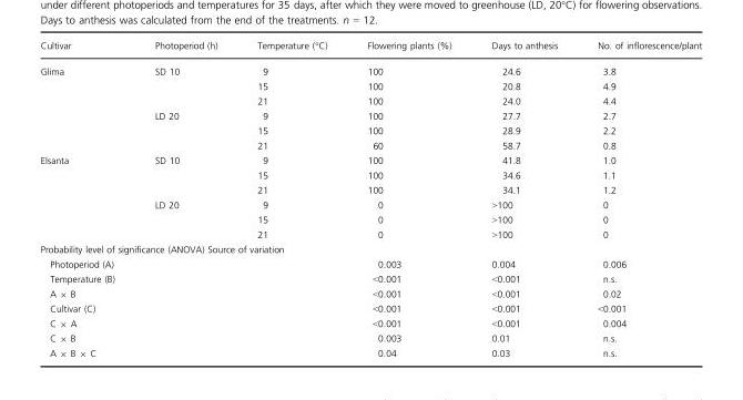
<table><thead><tr><td>Cultivar</td><td>Photoperiod (h)</td><td>Temperature (°C)</td><td>Flowering plants (%)</td><td>Days to anthesis</td><td>No. of inflorescence/plant</td></tr></thead><tbody><tr><td rowspan="6">Glima</td><td rowspan="3">SD 10</td><td>9</td><td>100</td><td>24.6</td><td>3.8</td></tr><tr><td>15</td><td>100</td><td>20.8</td><td>4.9</td></tr><tr><td>21</td><td>100</td><td>24.0</td><td>4.4</td></tr><tr><td rowspan="3">LD 20</td><td>9</td><td>100</td><td>27.7</td><td>2.7</td></tr><tr><td>15</td><td>100</td><td>28.9</td><td>2.2</td></tr><tr><td>21</td><td>60</td><td>58.7</td><td>0.8</td></tr><tr><td rowspan="6">Elsanta</td><td rowspan="3">SD 10</td><td>9</td><td>100</td><td>41.8</td><td>1.0</td></tr><tr><td>15</td><td>100</td><td>34.6</td><td>1.1</td></tr><tr><td>21</td><td>100</td><td>34.1</td><td>1.2</td></tr><tr><td rowspan="3">LD 20</td><td>9</td><td>0</td><td>&gt;100</td><td>0</td></tr><tr><td>15</td><td>0</td><td>&gt;100</td><td>0</td></tr><tr><td>21</td><td>0</td><td>&gt;100</td><td>0</td></tr><tr><td colspan="6">Probability level of significance (ANOVA) Source of variation</td></tr><tr><td>Photoperiod (A)</td><td></td><td></td><td>0.003</td><td>0.004</td><td>0.006</td></tr><tr><td>Temperature (B)</td><td></td><td></td><td>&lt;0.001</td><td>&lt;0.001</td><td>n.s.</td></tr><tr><td>A × B</td><td></td><td></td><td>&lt;0.001</td><td>&lt;0.001</td><td>0.02</td></tr><tr><td>Cultivar (C)</td><td></td><td></td><td>&lt;0.001</td><td>&lt;0.001</td><td>&lt;0.001</td></tr><tr><td>C × A</td><td></td><td></td><td>&lt;0.001</td><td>&lt;0.001</td><td>0.004</td></tr><tr><td>C × B</td><td></td><td></td><td>0.003</td><td>0.01</td><td>n.s.</td></tr><tr><td>A × B × C</td><td></td><td></td><td>0.04</td><td>0.03</td><td>n.s.</td></tr></tbody></table>